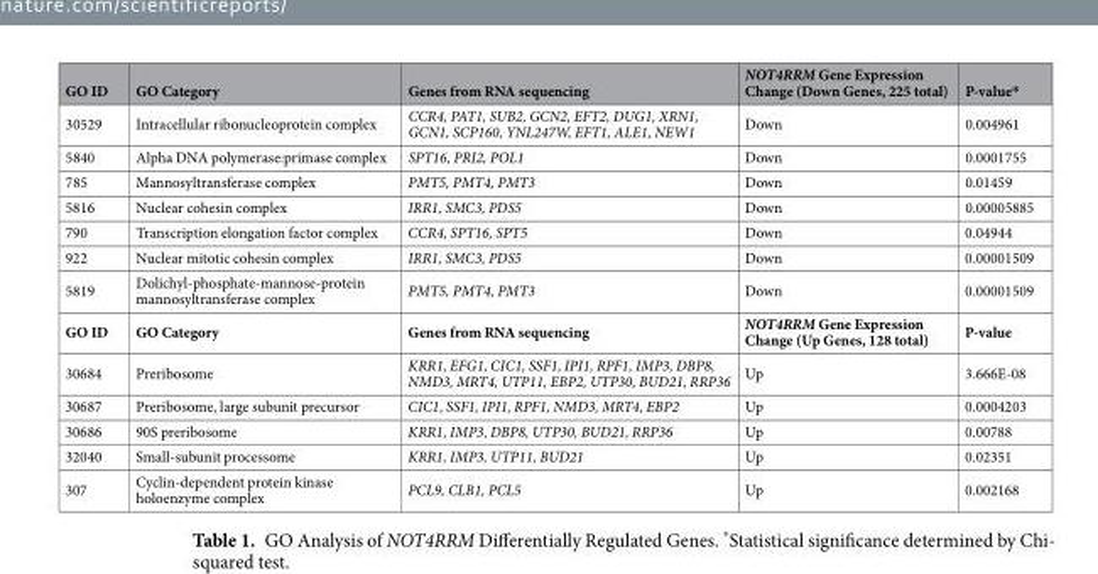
<table><thead><tr><td>GO ID</td><td>GO Category</td><td>Genes from RNA sequencing</td><td>NOT4RRM Gene Expression Change (Down Genes, 225 total)</td><td>P-value*</td></tr></thead><tbody><tr><td>30529</td><td>Intracellular ribonucleoprotein complex</td><td>CCR4, PAT1, SUB2, GCN2, EFT2, DUG1, XRN1, GCN1, SCP160, YNL247W, EFT1, ALE1, NEW1</td><td>Down</td><td>0.004961</td></tr><tr><td>5840</td><td>Alpha DNA polymerase:primase complex</td><td>SPT16, PRI2, POL1</td><td>Down</td><td>0.0001755</td></tr><tr><td>785</td><td>Mannosyltransferase complex</td><td>PMT5, PMT4, PMT3</td><td>Down</td><td>0.01459</td></tr><tr><td>5816</td><td>Nuclear cohesin complex</td><td>IRR1, SMC3, PDS5</td><td>Down</td><td>0.00005885</td></tr><tr><td>790</td><td>Transcription elongation factor complex</td><td>CCR4, SPT16, SPT5</td><td>Down</td><td>0.04944</td></tr><tr><td>922</td><td>Nuclear mitotic cohesin complex</td><td>IRR1, SMC3, PDS5</td><td>Down</td><td>0.00001509</td></tr><tr><td>5819</td><td>Dolichyl-phosphate-mannose-protein mannosyltransferase complex</td><td>PMT5, PMT4, PMT3</td><td>Down</td><td>0.00001509</td></tr><tr><td>GO ID</td><td>GO Category</td><td>Genes from RNA sequencing</td><td>NOT4RRM Gene Expression Change (Up Genes, 128 total)</td><td>P-value</td></tr><tr><td>30684</td><td>Preribosome</td><td>KRR1, EFG1, CIC1, SSF1, IPI1, RPF1, IMP3, DBP8, NMD3, MRT4, UTP11, EBP2, UTP30, BUD21, RRP36</td><td>Up</td><td>3.666E-08</td></tr><tr><td>30687</td><td>Preribosome, large subunit precursor</td><td>CIC1, SSF1, IPI1, RPF1, NMD3, MRT4, EBP2</td><td>Up</td><td>0.0004203</td></tr><tr><td>30686</td><td>90S preribosome</td><td>KRR1, IMP3, DBP8, UTP30, BUD21, RRP36</td><td>Up</td><td>0.00788</td></tr><tr><td>32040</td><td>Small-subunit processome</td><td>KRR1, IMP3, UTP11, BUD21</td><td>Up</td><td>0.02351</td></tr><tr><td>307</td><td>Cyclin-dependent protein kinase holoenzyme complex</td><td>PCL9, CLB1, PCL5</td><td>Up</td><td>0.002168</td></tr></tbody></table>